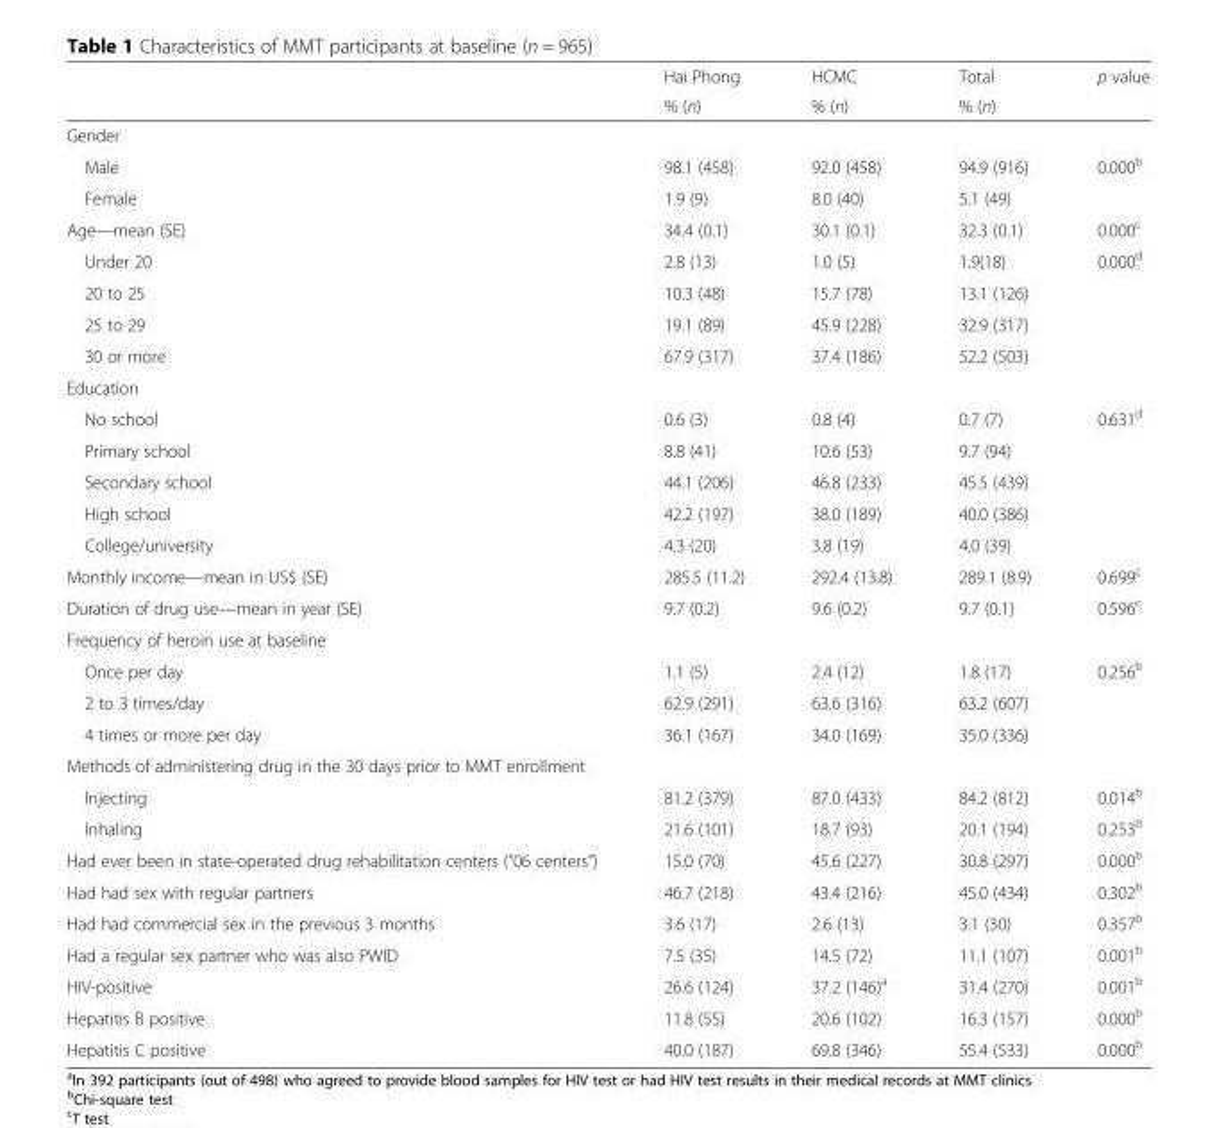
<table><thead><tr><td rowspan="2"></td><td rowspan="2">Hai Phong % (n)</td><td rowspan="2">HCMC % (n)</td><td rowspan="2">Total % (n)</td><td rowspan="2">p value</td></tr><tr></tr></thead><tbody><tr><td colspan="5">Gender</td></tr><tr><td>Male</td><td>98.1 (458)</td><td>92.0 (458)</td><td>94.9 (916)</td><td rowspan="2">0.000<sup>b</sup></td></tr><tr><td>Female</td><td>1.9 (9)</td><td>8.0 (40)</td><td>5.1 (49)</td></tr><tr><td>Age—mean (SE)</td><td>34.4 (0.1)</td><td>30.1 (0.1)</td><td>32.3 (0.1)</td><td>0.000<sup>c</sup></td></tr><tr><td>Under 20</td><td>2.8 (13)</td><td>1.0 (5)</td><td>1.9(18)</td><td rowspan="4">0.000<sup>d</sup></td></tr><tr><td>20 to 25</td><td>10.3 (48)</td><td>15.7 (78)</td><td>13.1 (126)</td></tr><tr><td>25 to 29</td><td>19.1 (89)</td><td>45.9 (228)</td><td>32.9 (317)</td></tr><tr><td>30 or more</td><td>67.9 (317)</td><td>37.4 (186)</td><td>52.2 (503)</td></tr><tr><td colspan="5">Education</td></tr><tr><td>No school</td><td>0.6 (3)</td><td>0.8 (4)</td><td>0.7 (7)</td><td rowspan="5">0.631<sup>d</sup></td></tr><tr><td>Primary school</td><td>8.8 (41)</td><td>10.6 (53)</td><td>9.7 (94)</td></tr><tr><td>Secondary school</td><td>44.1 (206)</td><td>46.8 (233)</td><td>45.5 (439)</td></tr><tr><td>High school</td><td>42.2 (197)</td><td>38.0 (189)</td><td>40.0 (386)</td></tr><tr><td>College/university</td><td>4.3 (20)</td><td>3.8 (19)</td><td>4.0 (39)</td></tr><tr><td>Monthly income—mean in US$ (SE)</td><td>285.5 (11.2)</td><td>292.4 (13.8)</td><td>289.1 (8.9)</td><td>0.699<sup>c</sup></td></tr><tr><td>Duration of drug use—mean in year (SE)</td><td>9.7 (0.2)</td><td>9.6 (0.2)</td><td>9.7 (0.1)</td><td>0.596<sup>c</sup></td></tr><tr><td colspan="5">Frequency of heroin use at baseline</td></tr><tr><td>Once per day</td><td>1.1 (5)</td><td>2.4 (12)</td><td>1.8 (17)</td><td rowspan="3">0.256<sup>b</sup></td></tr><tr><td>2 to 3 times/day</td><td>62.9 (291)</td><td>63.6 (316)</td><td>63.2 (607)</td></tr><tr><td>4 times or more per day</td><td>36.1 (167)</td><td>34.0 (169)</td><td>35.0 (336)</td></tr><tr><td colspan="5">Methods of administering drug in the 30 days prior to MMT enrollment</td></tr><tr><td>Injecting</td><td>81.2 (379)</td><td>87.0 (433)</td><td>84.2 (812)</td><td>0.014<sup>b</sup></td></tr><tr><td>Inhaling</td><td>21.6 (101)</td><td>18.7 (93)</td><td>20.1 (194)</td><td>0.253<sup>b</sup></td></tr><tr><td>Had ever been in state-operated drug rehabilitation centers (“06 centers”)</td><td>15.0 (70)</td><td>45.6 (227)</td><td>30.8 (297)</td><td>0.000<sup>b</sup></td></tr><tr><td>Had had sex with regular partners</td><td>46.7 (218)</td><td>43.4 (216)</td><td>45.0 (434)</td><td>0.302<sup>b</sup></td></tr><tr><td>Had had commercial sex in the previous 3 months</td><td>3.6 (17)</td><td>2.6 (13)</td><td>3.1 (30)</td><td>0.357<sup>b</sup></td></tr><tr><td>Had a regular sex partner who was also PWID</td><td>7.5 (35)</td><td>14.5 (72)</td><td>11.1 (107)</td><td>0.001<sup>b</sup></td></tr><tr><td>HIV-positive</td><td>26.6 (124)</td><td>37.2 (146)<sup>a</sup></td><td>31.4 (270)</td><td>0.001<sup>b</sup></td></tr><tr><td>Hepatitis B positive</td><td>11.8 (55)</td><td>20.6 (102)</td><td>16.3 (157)</td><td>0.000<sup>b</sup></td></tr><tr><td>Hepatitis C positive</td><td>40.0 (187)</td><td>69.8 (346)</td><td>55.4 (533)</td><td>0.000<sup>b</sup></td></tr></tbody></table>